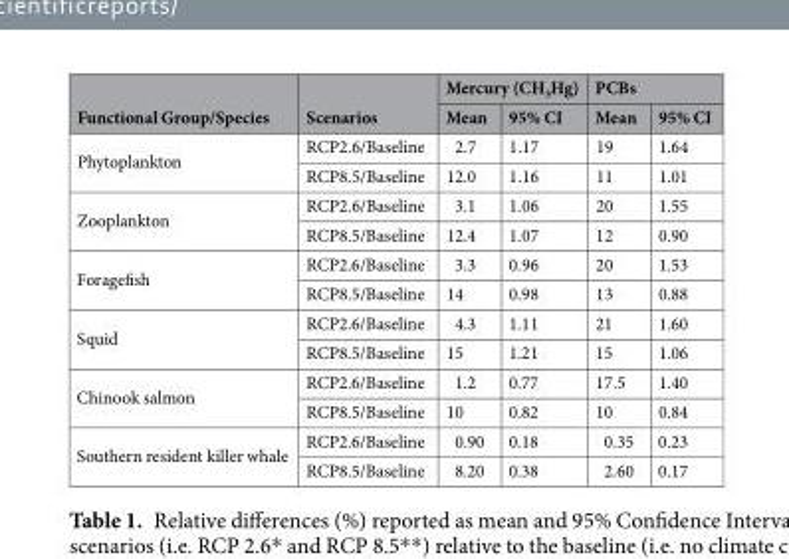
<table><thead><tr><td rowspan="2">Functional Group/Species</td><td rowspan="2">Scenarios</td><td colspan="2">Mercury (CH<sub>3</sub>Hg)</td><td colspan="2">PCBs</td></tr><tr><td>Mean</td><td>95% CI</td><td>Mean</td><td>95% CI</td></tr></thead><tbody><tr><td rowspan="2">Phytoplankton</td><td>RCP2.6/Baseline</td><td>2.7</td><td>1.17</td><td>19</td><td>1.64</td></tr><tr><td>RCP8.5/Baseline</td><td>12.0</td><td>1.16</td><td>11</td><td>1.01</td></tr><tr><td rowspan="2">Zooplankton</td><td>RCP2.6/Baseline</td><td>3.1</td><td>1.06</td><td>20</td><td>1.55</td></tr><tr><td>RCP8.5/Baseline</td><td>12.4</td><td>1.07</td><td>12</td><td>0.90</td></tr><tr><td rowspan="2">Foragefish</td><td>RCP2.6/Baseline</td><td>3.3</td><td>0.96</td><td>20</td><td>1.53</td></tr><tr><td>RCP8.5/Baseline</td><td>14</td><td>0.98</td><td>13</td><td>0.88</td></tr><tr><td rowspan="2">Squid</td><td>RCP2.6/Baseline</td><td>4.3</td><td>1.11</td><td>21</td><td>1.60</td></tr><tr><td>RCP8.5/Baseline</td><td>15</td><td>1.21</td><td>15</td><td>1.06</td></tr><tr><td rowspan="2">Chinook salmon</td><td>RCP2.6/Baseline</td><td>1.2</td><td>0.77</td><td>17.5</td><td>1.40</td></tr><tr><td>RCP8.5/Baseline</td><td>10</td><td>0.82</td><td>10</td><td>0.84</td></tr><tr><td rowspan="2">Southern resident killer whale</td><td>RCP2.6/Baseline</td><td>0.90</td><td>0.18</td><td>0.35</td><td>0.23</td></tr><tr><td>RCP8.5/Baseline</td><td>8.20</td><td>0.38</td><td>2.60</td><td>0.17</td></tr></tbody></table>